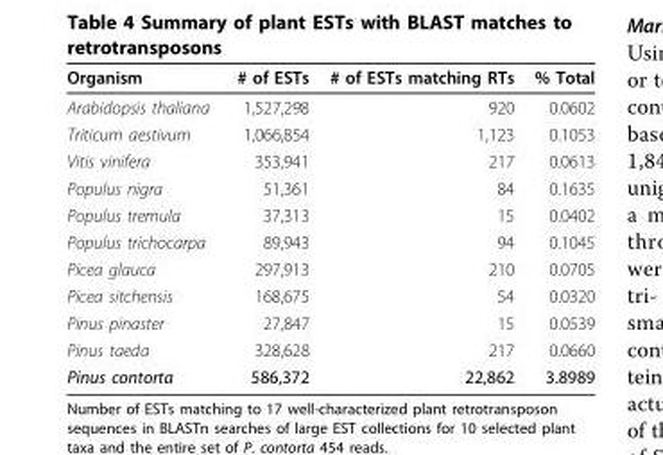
<table><thead><tr><td>Organism</td><td># of ESTs</td><td># of ESTs matching RTs</td><td>% Total</td></tr></thead><tbody><tr><td>Arabidopsis thaliana</td><td>1,527,298</td><td>920</td><td>0.0602</td></tr><tr><td>Triticum aestivum</td><td>1,066,854</td><td>1,123</td><td>0.1053</td></tr><tr><td>Vitis vinifera</td><td>353,941</td><td>217</td><td>0.0613</td></tr><tr><td>Populus nigra</td><td>51,361</td><td>84</td><td>0.1635</td></tr><tr><td>Populus tremula</td><td>37,313</td><td>15</td><td>0.0402</td></tr><tr><td>Populus trichocarpa</td><td>89,943</td><td>94</td><td>0.1045</td></tr><tr><td>Picea glauca</td><td>297,913</td><td>210</td><td>0.0705</td></tr><tr><td>Picea sitchensis</td><td>168,675</td><td>54</td><td>0.0320</td></tr><tr><td>Pinus pinaster</td><td>27,847</td><td>15</td><td>0.0539</td></tr><tr><td>Pinus taeda</td><td>328,628</td><td>217</td><td>0.0660</td></tr><tr><td>Pinus contorta</td><td>586,372</td><td>22,862</td><td>3.8989</td></tr></tbody></table>